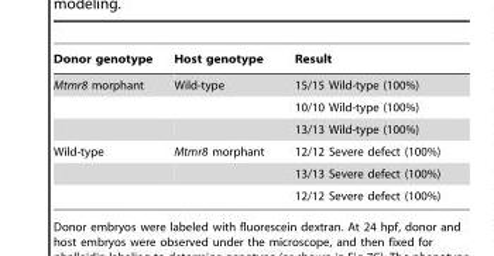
<table><thead><tr><td>Donor genotype</td><td>Host genotype</td><td>Result</td></tr></thead><tbody><tr><td rowspan="3">Mtmr8 morphant</td><td>Wild-type</td><td>15/15 Wild-type (100%)</td></tr><tr><td></td><td>10/10 Wild-type (100%)</td></tr><tr><td></td><td>13/13 Wild-type (100%)</td></tr><tr><td rowspan="3">Wild-type</td><td>Mtmr8 morphant</td><td>12/12 Severe defect (100%)</td></tr><tr><td></td><td>13/13 Severe defect (100%)</td></tr><tr><td></td><td>12/12 Severe defect (100%)</td></tr></tbody></table>